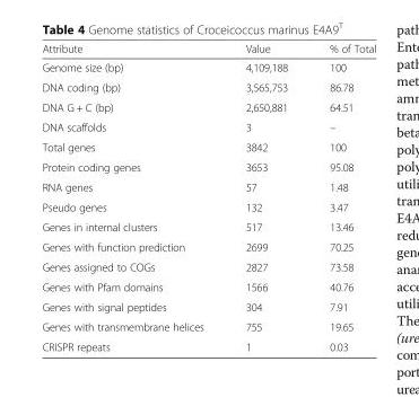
<table><thead><tr><td>Attribute</td><td>Value</td><td>% of Total</td></tr></thead><tbody><tr><td>Genome size (bp)</td><td>4,109,188</td><td>100</td></tr><tr><td>DNA coding (bp)</td><td>3,565,753</td><td>86.78</td></tr><tr><td>DNA G + C (bp)</td><td>2,650,881</td><td>64.51</td></tr><tr><td>DNA scaffolds</td><td>3</td><td>–</td></tr><tr><td>Total genes</td><td>3842</td><td>100</td></tr><tr><td>Protein coding genes</td><td>3653</td><td>95.08</td></tr><tr><td>RNA genes</td><td>57</td><td>1.48</td></tr><tr><td>Pseudo genes</td><td>132</td><td>3.47</td></tr><tr><td>Genes in internal clusters</td><td>517</td><td>13.46</td></tr><tr><td>Genes with function prediction</td><td>2699</td><td>70.25</td></tr><tr><td>Genes assigned to COGs</td><td>2827</td><td>73.58</td></tr><tr><td>Genes with Pfam domains</td><td>1566</td><td>40.76</td></tr><tr><td>Genes with signal peptides</td><td>304</td><td>7.91</td></tr><tr><td>Genes with transmembrane helices</td><td>755</td><td>19.65</td></tr><tr><td>CRISPR repeats</td><td>1</td><td>0.03</td></tr></tbody></table>